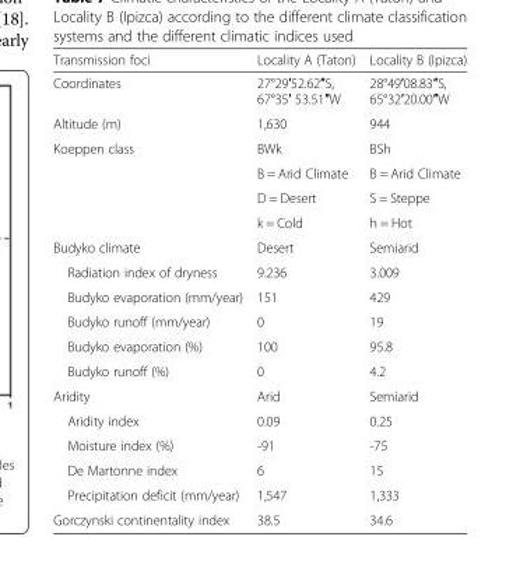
<table><thead><tr><td>Transmission foci</td><td>Locality A (Taton)</td><td>Locality B (Ipizca)</td></tr></thead><tbody><tr><td>Coordinates</td><td>27°29′52.62″S, 67°35′ 53.51″W</td><td>28°49′08.83″S, 65°32′20.00″W</td></tr><tr><td>Altitude (m)</td><td>1,630</td><td>944</td></tr><tr><td rowspan="4">Koeppen class</td><td>BWk</td><td>BSh</td></tr><tr><td>B = Arid Climate</td><td>B = Arid Climate</td></tr><tr><td>D = Desert</td><td>S = Steppe</td></tr><tr><td>k = Cold</td><td>h = Hot</td></tr><tr><td>Budyko climate</td><td>Desert</td><td>Semiarid</td></tr><tr><td>Radiation index of dryness</td><td>9.236</td><td>3.009</td></tr><tr><td>Budyko evaporation (mm/year)</td><td>151</td><td>429</td></tr><tr><td>Budyko runoff (mm/year)</td><td>0</td><td>19</td></tr><tr><td>Budyko evaporation (%)</td><td>100</td><td>95.8</td></tr><tr><td>Budyko runoff (%)</td><td>0</td><td>4.2</td></tr><tr><td>Aridity</td><td>Arid</td><td>Semiarid</td></tr><tr><td>Aridity index</td><td>0.09</td><td>0.25</td></tr><tr><td>Moisture index (%)</td><td>-91</td><td>-75</td></tr><tr><td>De Martonne index</td><td>6</td><td>15</td></tr><tr><td>Precipitation deficit (mm/year)</td><td>1,547</td><td>1,333</td></tr><tr><td>Gorczynski continentality index</td><td>38.5</td><td>34.6</td></tr></tbody></table>